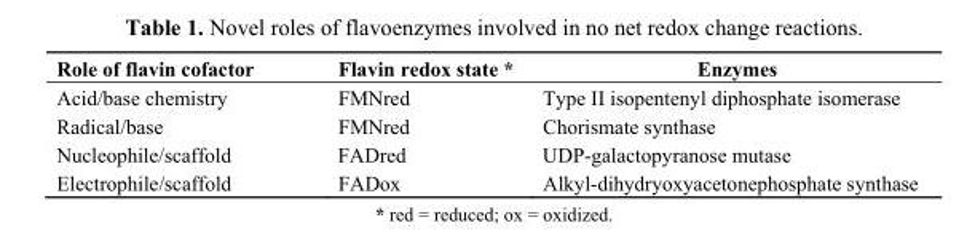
<table><thead><tr><td>Role of flavin cofactor</td><td>Flavin redox state *</td><td>Enzymes</td></tr></thead><tbody><tr><td>Acid/base chemistry</td><td>FMNred</td><td>Type II isopentenyl diphosphate isomerase</td></tr><tr><td>Radical/base</td><td>FMNred</td><td>Chorismate synthase</td></tr><tr><td>Nucleophile/scaffold</td><td>FADred</td><td>UDP-galactopyranose mutase</td></tr><tr><td>Electrophile/scaffold</td><td>FADox</td><td>Alkyl-dihydryoxyacetonephosphate synthase</td></tr></tbody></table>